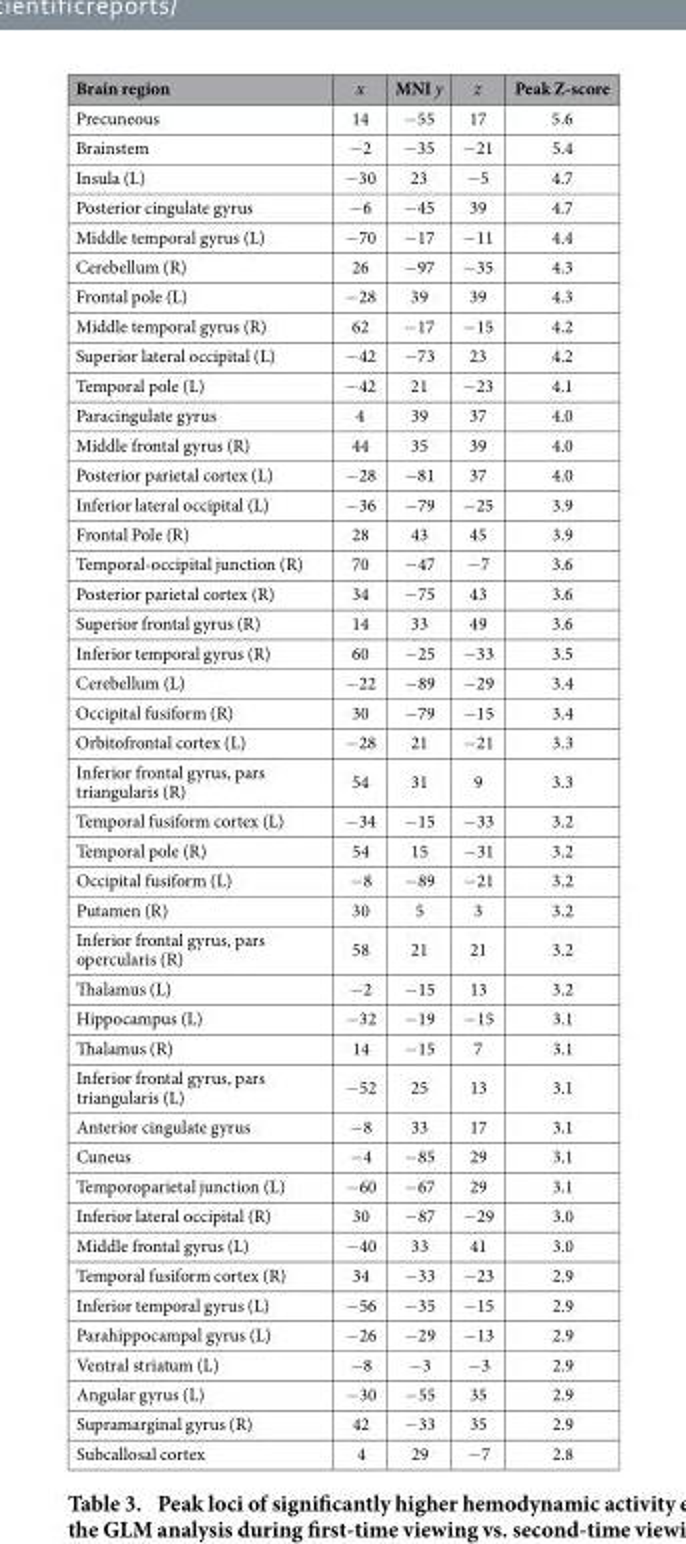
<table><thead><tr><td>Brain region</td><td>x</td><td>MNI y</td><td>z</td><td>Peak Z-score</td></tr></thead><tbody><tr><td>Precuneous</td><td>14</td><td>− 55</td><td>17</td><td>5.6</td></tr><tr><td>Brainstem</td><td>− 2</td><td>− 35</td><td>− 21</td><td>5.4</td></tr><tr><td>Insula (L)</td><td>− 30</td><td>23</td><td>− 5</td><td>4.7</td></tr><tr><td>Posterior cingulate gyrus</td><td>− 6</td><td>− 45</td><td>39</td><td>4.7</td></tr><tr><td>Middle temporal gyrus (L)</td><td>− 70</td><td>− 17</td><td>− 11</td><td>4.4</td></tr><tr><td>Cerebellum (R)</td><td>26</td><td>− 97</td><td>− 35</td><td>4.3</td></tr><tr><td>Frontal pole (L)</td><td>− 28</td><td>39</td><td>39</td><td>4.3</td></tr><tr><td>Middle temporal gyrus (R)</td><td>62</td><td>− 17</td><td>− 15</td><td>4.2</td></tr><tr><td>Superior lateral occipital (L)</td><td>− 42</td><td>− 73</td><td>23</td><td>4.2</td></tr><tr><td>Temporal pole (L)</td><td>− 42</td><td>21</td><td>− 23</td><td>4.1</td></tr><tr><td>Paracingulate gyrus</td><td>4</td><td>39</td><td>37</td><td>4.0</td></tr><tr><td>Middle frontal gyrus (R)</td><td>44</td><td>35</td><td>39</td><td>4.0</td></tr><tr><td>Posterior parietal cortex (L)</td><td>− 28</td><td>− 81</td><td>37</td><td>4.0</td></tr><tr><td>Inferior lateral occipital (L)</td><td>− 36</td><td>− 79</td><td>− 25</td><td>3.9</td></tr><tr><td>Frontal Pole (R)</td><td>28</td><td>43</td><td>45</td><td>3.9</td></tr><tr><td>Temporal-occipital junction (R)</td><td>70</td><td>− 47</td><td>− 7</td><td>3.6</td></tr><tr><td>Posterior parietal cortex (R)</td><td>34</td><td>− 75</td><td>43</td><td>3.6</td></tr><tr><td>Superior frontal gyrus (R)</td><td>14</td><td>33</td><td>49</td><td>3.6</td></tr><tr><td>Inferior temporal gyrus (R)</td><td>60</td><td>− 25</td><td>− 33</td><td>3.5</td></tr><tr><td>Cerebellum (L)</td><td>− 22</td><td>− 89</td><td>− 29</td><td>3.4</td></tr><tr><td>Occipital fusiform (R)</td><td>30</td><td>− 79</td><td>− 15</td><td>3.4</td></tr><tr><td>Orbitofrontal cortex (L)</td><td>− 28</td><td>21</td><td>− 21</td><td>3.3</td></tr><tr><td>Inferior frontal gyrus, pars triangularis (R)</td><td>54</td><td>31</td><td>9</td><td>3.3</td></tr><tr><td>Temporal fusiform cortex (L)</td><td>− 34</td><td>− 15</td><td>− 33</td><td>3.2</td></tr><tr><td>Temporal pole (R)</td><td>54</td><td>15</td><td>− 31</td><td>3.2</td></tr><tr><td>Occipital fusiform (L)</td><td>− 8</td><td>− 89</td><td>− 21</td><td>3.2</td></tr><tr><td>Putamen (R)</td><td>30</td><td>5</td><td>3</td><td>3.2</td></tr><tr><td>Inferior frontal gyrus, pars opercularis (R)</td><td>58</td><td>21</td><td>21</td><td>3.2</td></tr><tr><td>Thalamus (L)</td><td>− 2</td><td>− 15</td><td>13</td><td>3.2</td></tr><tr><td>Hippocampus (L)</td><td>− 32</td><td>− 19</td><td>− 15</td><td>3.1</td></tr><tr><td>Thalamus (R)</td><td>14</td><td>− 15</td><td>7</td><td>3.1</td></tr><tr><td>Inferior frontal gyrus, pars triangularis (L)</td><td>− 52</td><td>25</td><td>13</td><td>3.1</td></tr><tr><td>Anterior cingulate gyrus</td><td>− 8</td><td>33</td><td>17</td><td>3.1</td></tr><tr><td>Cuneus</td><td>− 4</td><td>− 85</td><td>29</td><td>3.1</td></tr><tr><td>Temporoparietal junction (L)</td><td>− 60</td><td>− 67</td><td>29</td><td>3.1</td></tr><tr><td>Inferior lateral occipital (R)</td><td>30</td><td>− 87</td><td>− 29</td><td>3.0</td></tr><tr><td>Middle frontal gyrus (L)</td><td>− 40</td><td>33</td><td>41</td><td>3.0</td></tr><tr><td>Temporal fusiform cortex (R)</td><td>34</td><td>− 33</td><td>− 23</td><td>2.9</td></tr><tr><td>Inferior temporal gyrus (L)</td><td>− 56</td><td>− 35</td><td>− 15</td><td>2.9</td></tr><tr><td>Parahippocampal gyrus (L)</td><td>− 26</td><td>− 29</td><td>− 13</td><td>2.9</td></tr><tr><td>Ventral striatum (L)</td><td>− 8</td><td>− 3</td><td>− 3</td><td>2.9</td></tr><tr><td>Angular gyrus (L)</td><td>− 30</td><td>− 55</td><td>35</td><td>2.9</td></tr><tr><td>Supramarginal gyrus (R)</td><td>42</td><td>− 33</td><td>35</td><td>2.9</td></tr><tr><td>Subcallosal cortex</td><td>4</td><td>29</td><td>− 7</td><td>2.8</td></tr></tbody></table>